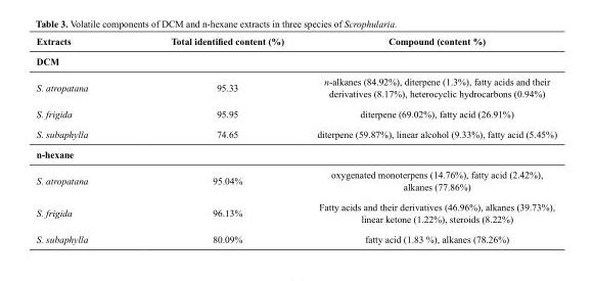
<table><thead><tr><td>Extracts</td><td>Total identified content (%)</td><td>Compound (content %)</td></tr></thead><tbody><tr><td colspan="3">DCM</td></tr><tr><td>S. atropatana</td><td>95.33</td><td>n-alkanes (84.92%), diterpene (1.3%), fatty acids and their derivatives (8.17%), heterocyclic hydrocarbons (0.94%)</td></tr><tr><td>S. frigida</td><td>95.95</td><td>diterpene (69.02%), fatty acid (26.91%)</td></tr><tr><td>S. subaphylla</td><td>74.65</td><td>diterpene (59.87%), linear alcohol (9.33%), fatty acid (5.45%)</td></tr><tr><td colspan="3">n-hexane</td></tr><tr><td>S. atropatana</td><td>95.04%</td><td>oxygenated monoterpens (14.76%), fatty acid (2.42%), alkanes (77.86%)</td></tr><tr><td>S. frigida</td><td>96.13%</td><td>Fatty acids and their derivatives (46.96%), alkanes (39.73%), linear ketone (1.22%), steroids (8.22%)</td></tr><tr><td>S. subaphylla</td><td>80.09%</td><td>fatty acid (1.83 %), alkanes (78.26%)</td></tr></tbody></table>